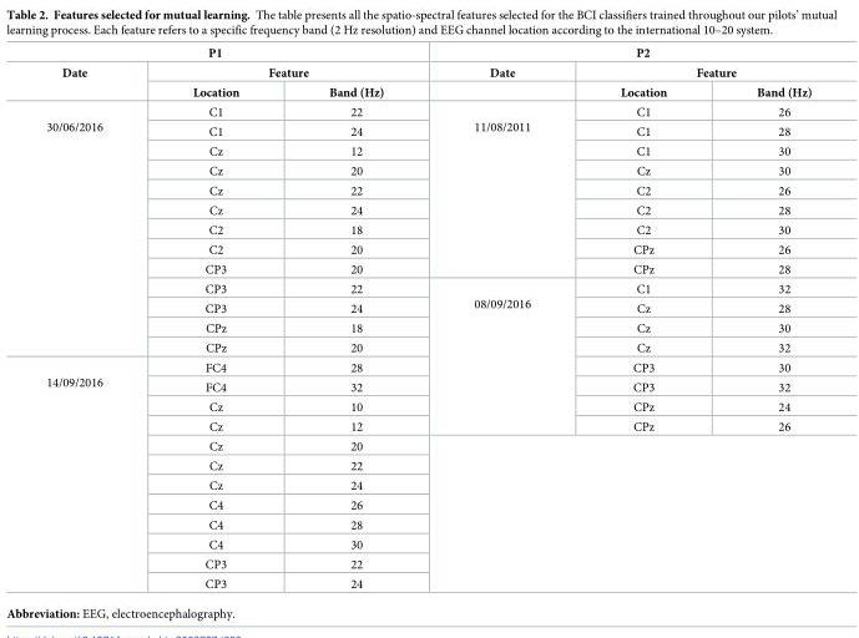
<table><thead><tr><td colspan="3">P1</td><td colspan="3">P2</td></tr><tr><td rowspan="2">Date</td><td colspan="2">Feature</td><td rowspan="2">Date</td><td colspan="2">Feature</td></tr><tr><td>Location</td><td>Band (Hz)</td><td>Location</td><td>Band (Hz)</td></tr></thead><tbody><tr><td rowspan="13">30/06/2016</td><td>C1</td><td>22</td><td rowspan="9">11/08/2011</td><td>C1</td><td>26</td></tr><tr><td>C1</td><td>24</td><td>C1</td><td>28</td></tr><tr><td>Cz</td><td>12</td><td>C1</td><td>30</td></tr><tr><td>Cz</td><td>20</td><td>Cz</td><td>30</td></tr><tr><td>Cz</td><td>22</td><td>C2</td><td>26</td></tr><tr><td>Cz</td><td>24</td><td>C2</td><td>28</td></tr><tr><td>C2</td><td>18</td><td>C2</td><td>30</td></tr><tr><td>C2</td><td>20</td><td>CPz</td><td>26</td></tr><tr><td>CP3</td><td>20</td><td>CPz</td><td>28</td></tr><tr><td>CP3</td><td>22</td><td rowspan="8">08/09/2016</td><td>C1</td><td>32</td></tr><tr><td>CP3</td><td>24</td><td>Cz</td><td>28</td></tr><tr><td>CPz</td><td>18</td><td>Cz</td><td>30</td></tr><tr><td>CPz</td><td>20</td><td>Cz</td><td>32</td></tr><tr><td rowspan="12">14/09/2016</td><td>FC4</td><td>28</td><td>CP3</td><td>30</td></tr><tr><td>FC4</td><td>32</td><td>CP3</td><td>32</td></tr><tr><td>Cz</td><td>10</td><td>CPz</td><td>24</td></tr><tr><td>Cz</td><td>12</td><td>CPz</td><td>26</td></tr><tr><td>Cz</td><td>20</td><td rowspan="8" colspan="3"></td></tr><tr><td>Cz</td><td>22</td></tr><tr><td>Cz</td><td>24</td></tr><tr><td>C4</td><td>26</td></tr><tr><td>C4</td><td>28</td></tr><tr><td>C4</td><td>30</td></tr><tr><td>CP3</td><td>22</td></tr><tr><td>CP3</td><td>24</td></tr></tbody></table>